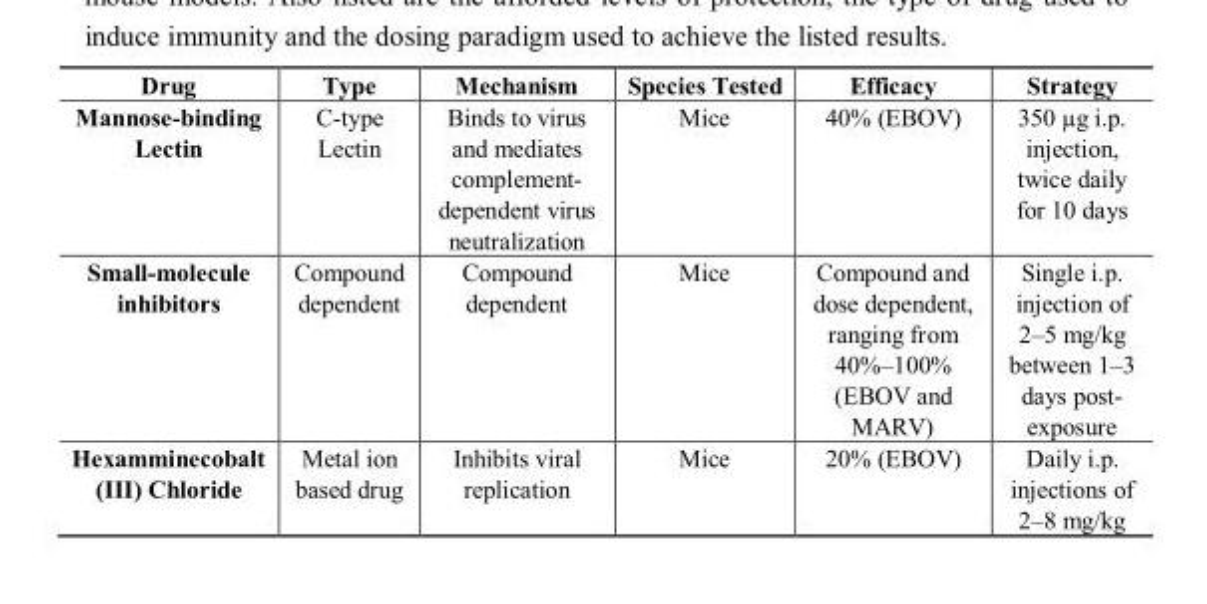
<table><thead><tr><td>Drug</td><td>Type</td><td>Mechanism</td><td>Species Tested</td><td>Efficacy</td><td>Strategy</td></tr></thead><tbody><tr><td>Mannose-binding Lectin</td><td>C-type Lectin</td><td>Binds to virus and mediates complement- dependent virus neutralization</td><td>Mice</td><td>40% (EBOV)</td><td>350 µg i.p. injection, twice daily for 10 days</td></tr><tr><td>Small-molecule inhibitors</td><td>Compound dependent</td><td>Compound dependent</td><td>Mice</td><td>Compound and dose dependent, ranging from 40%–100% (EBOV and MARV)</td><td>Single i.p. injection of 2–5 mg/kg between 1–3 days post- exposure</td></tr><tr><td>Hexamminecobalt (III) Chloride</td><td>Metal ion based drug</td><td>Inhibits viral replication</td><td>Mice</td><td>20% (EBOV)</td><td>Daily i.p. injections of 2–8 mg/kg</td></tr></tbody></table>